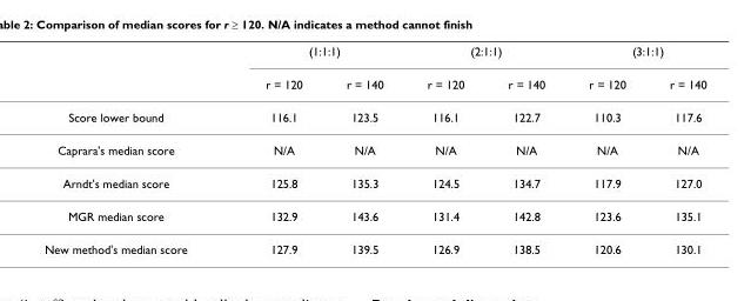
<table><thead><tr><td rowspan="2"></td><td colspan="2">(1:1:1)</td><td colspan="2">(2:1:1)</td><td colspan="2">(3:1:1)</td></tr><tr><td>r = 120</td><td>r = 140</td><td>r = 120</td><td>r = 140</td><td>r = 120</td><td>r = 140</td></tr></thead><tbody><tr><td>Score lower bound</td><td>116.1</td><td>123.5</td><td>116.1</td><td>122.7</td><td>110.3</td><td>117.6</td></tr><tr><td>Caprara&#x27;s median score</td><td>N/A</td><td>N/A</td><td>N/A</td><td>N/A</td><td>N/A</td><td>N/A</td></tr><tr><td>Arndt&#x27;s median score</td><td>125.8</td><td>135.3</td><td>124.5</td><td>134.7</td><td>117.9</td><td>127.0</td></tr><tr><td>MGR median score</td><td>132.9</td><td>143.6</td><td>131.4</td><td>142.8</td><td>123.6</td><td>135.1</td></tr><tr><td>New method&#x27;s median score</td><td>127.9</td><td>139.5</td><td>126.9</td><td>138.5</td><td>120.6</td><td>130.1</td></tr></tbody></table>